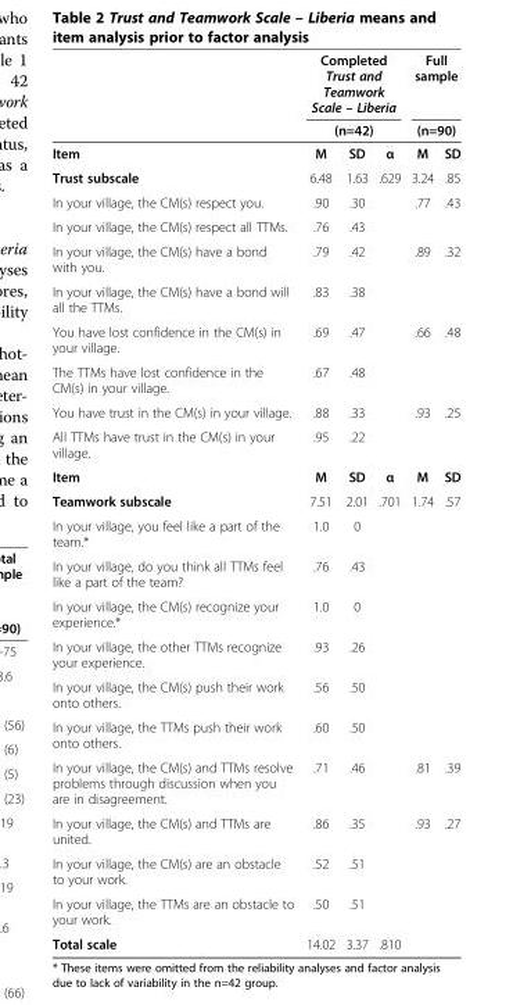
<table><thead><tr><td rowspan="3">Item</td><td rowspan="2" colspan="3">Completed Trust and Teamwork Scale – Liberia (n=42)</td><td rowspan="2" colspan="2">Full sample (n=90)</td></tr><tr></tr><tr><td>M</td><td>SD</td><td>α</td><td>M</td><td>SD</td></tr></thead><tbody><tr><td>Trust subscale</td><td>6.48</td><td>1.63</td><td>.629</td><td>3.24</td><td>.85</td></tr><tr><td>In your village, the CM(s) respect you.</td><td>.90</td><td>.30</td><td></td><td>.77</td><td>.43</td></tr><tr><td>In your village, the CM(s) respect all TTMs.</td><td>.76</td><td>.43</td><td></td><td></td><td></td></tr><tr><td>In your village, the CM(s) have a bond with you.</td><td>.79</td><td>.42</td><td></td><td>.89</td><td>.32</td></tr><tr><td>In your village, the CM(s) have a bond will all the TTMs.</td><td>.83</td><td>.38</td><td></td><td></td><td></td></tr><tr><td>You have lost confidence in the CM(s) in your village.</td><td>.69</td><td>.47</td><td></td><td>.66</td><td>.48</td></tr><tr><td>The TTMs have lost confidence in the CM(s) in your village.</td><td>.67</td><td>.48</td><td></td><td></td><td></td></tr><tr><td>You have trust in the CM(s) in your village.</td><td>.88</td><td>.33</td><td></td><td>.93</td><td>.25</td></tr><tr><td>All TTMs have trust in the CM(s) in your village.</td><td>.95</td><td>.22</td><td></td><td></td><td></td></tr><tr><td>Item</td><td>M</td><td>SD</td><td>α</td><td>M</td><td>SD</td></tr><tr><td>Teamwork subscale</td><td>7.51</td><td>2.01</td><td>.701</td><td>1.74</td><td>.57</td></tr><tr><td>In your village, you feel like a part of the team.*</td><td>1.0</td><td>0</td><td></td><td></td><td></td></tr><tr><td>In your village, do you think all TTMs feel like a part of the team?</td><td>.76</td><td>.43</td><td></td><td></td><td></td></tr><tr><td>In your village, the CM(s) recognize your experience.*</td><td>1.0</td><td>0</td><td></td><td></td><td></td></tr><tr><td>In your village, the other TTMs recognize your experience.</td><td>.93</td><td>.26</td><td></td><td></td><td></td></tr><tr><td>In your village, the CM(s) push their work onto others.</td><td>.56</td><td>.50</td><td></td><td></td><td></td></tr><tr><td>In your village, the TTMs push their work onto others.</td><td>.60</td><td>.50</td><td></td><td></td><td></td></tr><tr><td>In your village, the CM(s) and TTMs resolve problems through discussion when you are in disagreement.</td><td>.71</td><td>.46</td><td></td><td>.81</td><td>.39</td></tr><tr><td>In your village, the CM(s) and TTMs are united.</td><td>.86</td><td>.35</td><td></td><td>.93</td><td>.27</td></tr><tr><td>In your village, the CM(s) are an obstacle to your work.</td><td>.52</td><td>.51</td><td></td><td></td><td></td></tr><tr><td>In your village, the TTMs are an obstacle to your work.</td><td>.50</td><td>.51</td><td></td><td></td><td></td></tr><tr><td>Total scale</td><td>14.02</td><td>3.37</td><td>.810</td><td></td><td></td></tr></tbody></table>